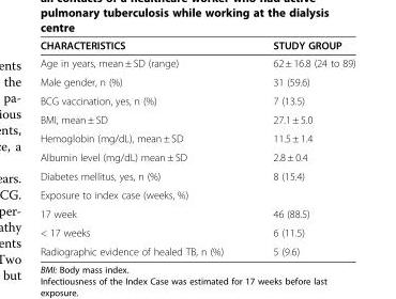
<table><thead><tr><td>CHARACTERISTICS</td><td>STUDY GROUP</td></tr></thead><tbody><tr><td>Age in years, mean ± SD (range)</td><td>62 ± 16.8 (24 to 89)</td></tr><tr><td>Male gender, n (%)</td><td>31 (59.6)</td></tr><tr><td>BCG vaccination, yes, n (%)</td><td>7 (13.5)</td></tr><tr><td>BMI, mean ± SD</td><td>27.1 ± 5.0</td></tr><tr><td>Hemoglobin (mg/dL), mean ± SD</td><td>11.5 ± 1.4</td></tr><tr><td>Albumin level (mg/dL) mean ± SD</td><td>2.8 ± 0.4</td></tr><tr><td>Diabetes mellitus, yes, n (%)</td><td>8 (15.4)</td></tr><tr><td colspan="2">Exposure to index case (weeks, %)</td></tr><tr><td>17 week</td><td>46 (88.5)</td></tr><tr><td>&lt; 17 weeks</td><td>6 (11.5)</td></tr><tr><td>Radiographic evidence of healed TB, n (%)</td><td>5 (9.6)</td></tr></tbody></table>